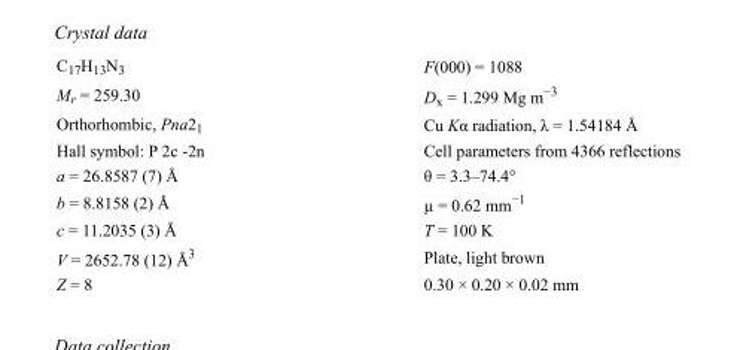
<table><tbody><tr><td>C<sub>17</sub>H<sub>13</sub>N<sub>3</sub></td><td>F(000) = 1088</td></tr><tr><td>M<sub>r</sub> = 259.30</td><td>D<sub>x</sub> = 1.299 Mg m<sup>−3</sup></td></tr><tr><td>Orthorhombic, Pna2<sub>1</sub></td><td>Cu Kα radiation, λ = 1.54184 Å</td></tr><tr><td>Hall symbol: P 2c -2n</td><td>Cell parameters from 4366 reflections</td></tr><tr><td>a = 26.8587 (7) Å</td><td>θ = 3.3–74.4°</td></tr><tr><td>b = 8.8158 (2) Å</td><td>µ = 0.62 mm<sup>−1</sup></td></tr><tr><td>c = 11.2035 (3) Å</td><td>T = 100 K</td></tr><tr><td>V = 2652.78 (12) Å<sup>3</sup></td><td>Plate, light brown</td></tr><tr><td>Z = 8</td><td>0.30 × 0.20 × 0.02 mm</td></tr></tbody></table>